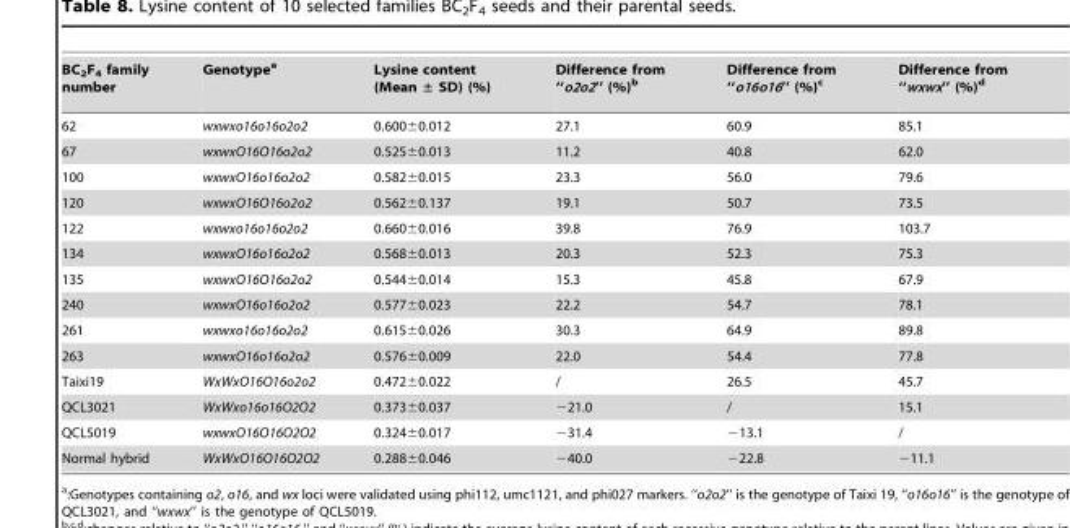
<table><tbody><tr><td>BC<sub>2</sub>F<sub>4</sub> family number</td><td>Genotypea</td><td>Lysine content (Mean ± SD) (%)</td><td>Difference from ‘‘o2o2’’ (%)b</td><td>Difference from ‘‘o16o16’’ (%)c</td><td>Difference from ‘‘wxwx’’ (%)d</td></tr><tr><td>62</td><td>wxwxo16o16o2o2</td><td>0.600±0.012</td><td>27.1</td><td>60.9</td><td>85.1</td></tr><tr><td>67</td><td>wxwxO16O16o2o2</td><td>0.525±0.013</td><td>11.2</td><td>40.8</td><td>62.0</td></tr><tr><td>100</td><td>wxwxO16o16o2o2</td><td>0.582±0.015</td><td>23.3</td><td>56.0</td><td>79.6</td></tr><tr><td>120</td><td>wxwxO16O16o2o2</td><td>0.562±0.137</td><td>19.1</td><td>50.7</td><td>73.5</td></tr><tr><td>122</td><td>wxwxo16o16o2o2</td><td>0.660±0.016</td><td>39.8</td><td>76.9</td><td>103.7</td></tr><tr><td>134</td><td>wxwxO16o16o2o2</td><td>0.568±0.013</td><td>20.3</td><td>52.3</td><td>75.3</td></tr><tr><td>135</td><td>wxwxO16O16o2o2</td><td>0.544±0.014</td><td>15.3</td><td>45.8</td><td>67.9</td></tr><tr><td>240</td><td>wxwxO16o16o2o2</td><td>0.577±0.023</td><td>22.2</td><td>54.7</td><td>78.1</td></tr><tr><td>261</td><td>wxwxo16o16o2o2</td><td>0.615±0.026</td><td>30.3</td><td>64.9</td><td>89.8</td></tr><tr><td>263</td><td>wxwxO16o16o2o2</td><td>0.576±0.009</td><td>22.0</td><td>54.4</td><td>77.8</td></tr><tr><td>Taixi19</td><td>WxWxO16O16o2o2</td><td>0.472±0.022</td><td>/</td><td>26.5</td><td>45.7</td></tr><tr><td>QCL3021</td><td>WxWxo16o16O2O2</td><td>0.373±0.037</td><td>−21.0</td><td>/</td><td>15.1</td></tr><tr><td>QCL5019</td><td>wxwxO16O16O2O2</td><td>0.324±0.017</td><td>−31.4</td><td>−13.1</td><td>/</td></tr><tr><td>Normal hybrid</td><td>WxWxO16O16O2O2</td><td>0.288±0.046</td><td>−40.0</td><td>−22.8</td><td>−11.1</td></tr></tbody></table>